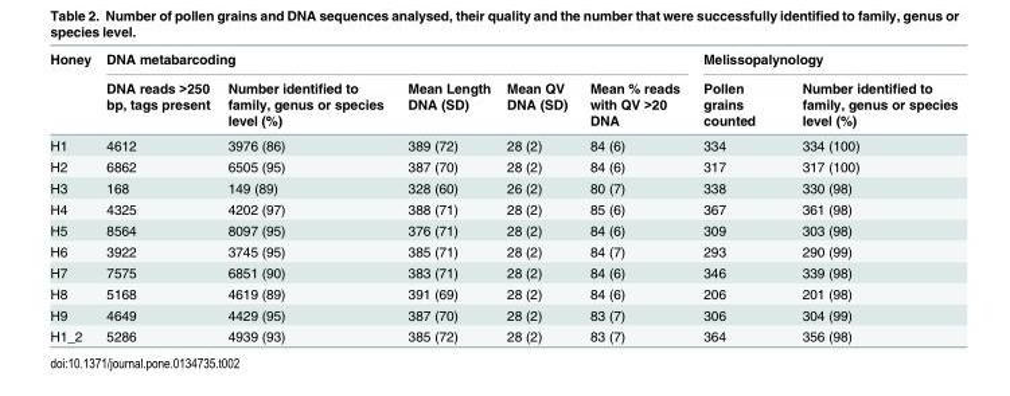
<table><thead><tr><td rowspan="2">Honey</td><td colspan="5">DNA metabarcoding</td><td colspan="2">Melissopalynology</td></tr><tr><td>DNA reads &gt;250 bp, tags present</td><td>Number identified to family, genus or species level (%)</td><td>Mean Length DNA (SD)</td><td>Mean QV DNA (SD)</td><td>Mean % reads with QV &gt;20 DNA</td><td>Pollen grains counted</td><td>Number identified to family, genus or species level (%)</td></tr></thead><tbody><tr><td>H1</td><td>4612</td><td>3976 (86)</td><td>389 (72)</td><td>28 (2)</td><td>84 (6)</td><td>334</td><td>334 (100)</td></tr><tr><td>H2</td><td>6862</td><td>6505 (95)</td><td>387 (70)</td><td>28 (2)</td><td>84 (6)</td><td>317</td><td>317 (100)</td></tr><tr><td>H3</td><td>168</td><td>149 (89)</td><td>328 (60)</td><td>26 (2)</td><td>80 (7)</td><td>338</td><td>330 (98)</td></tr><tr><td>H4</td><td>4325</td><td>4202 (97)</td><td>388 (71)</td><td>28 (2)</td><td>85 (6)</td><td>367</td><td>361 (98)</td></tr><tr><td>H5</td><td>8564</td><td>8097 (95)</td><td>376 (71)</td><td>28 (2)</td><td>84 (6)</td><td>309</td><td>303 (98)</td></tr><tr><td>H6</td><td>3922</td><td>3745 (95)</td><td>385 (71)</td><td>28 (2)</td><td>84 (7)</td><td>293</td><td>290 (99)</td></tr><tr><td>H7</td><td>7575</td><td>6851 (90)</td><td>383 (71)</td><td>28 (2)</td><td>84 (6)</td><td>346</td><td>339 (98)</td></tr><tr><td>H8</td><td>5168</td><td>4619 (89)</td><td>391 (69)</td><td>28 (2)</td><td>84 (6)</td><td>206</td><td>201 (98)</td></tr><tr><td>H9</td><td>4649</td><td>4429 (95)</td><td>387 (70)</td><td>28 (2)</td><td>83 (7)</td><td>306</td><td>304 (99)</td></tr><tr><td>H1_2</td><td>5286</td><td>4939 (93)</td><td>385 (72)</td><td>28 (2)</td><td>83 (7)</td><td>364</td><td>356 (98)</td></tr></tbody></table>